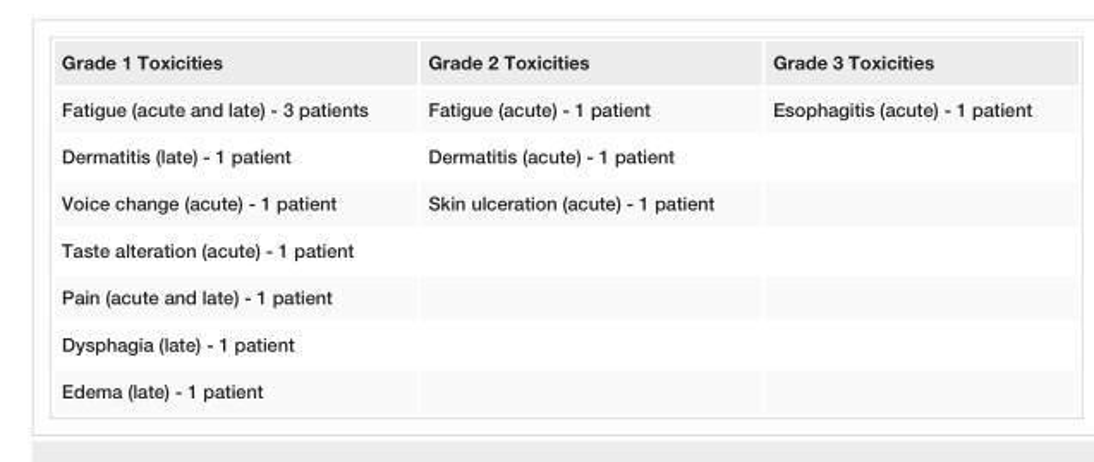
<table><tbody><tr><td>Grade 1 Toxicities</td><td>Grade 2 Toxicities</td><td>Grade 3 Toxicities</td></tr><tr><td>Fatigue (acute and late) - 3 patients</td><td>Fatigue (acute) - 1 patient</td><td>Esophagitis (acute) - 1 patient</td></tr><tr><td>Dermatitis (late) - 1 patient</td><td>Dermatitis (acute) - 1 patient</td><td></td></tr><tr><td>Voice change (acute) - 1 patient</td><td>Skin ulceration (acute) - 1 patient</td><td></td></tr><tr><td colspan="3">Taste alteration (acute) - 1 patient</td></tr><tr><td colspan="3">Pain (acute and late) - 1 patient</td></tr><tr><td colspan="3">Dysphagia (late) - 1 patient</td></tr><tr><td>Edema (late) - 1 patient</td><td></td><td></td></tr></tbody></table>